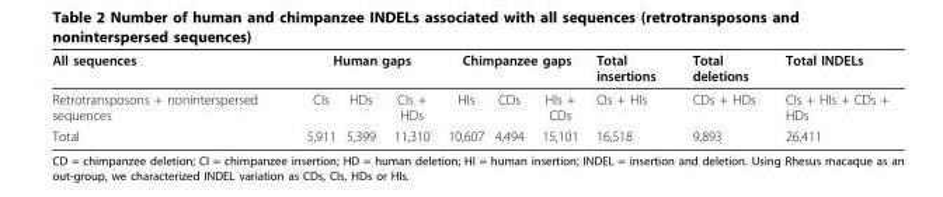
<table><thead><tr><td rowspan="2">All sequences Retrotransposons + noninterspersed sequences</td><td colspan="3">Human gaps</td><td colspan="3">Chimpanzee gaps</td><td rowspan="2">Total insertions CIs + HIs</td><td rowspan="2">Total deletions CDs + HDs</td><td rowspan="2">Total INDELs CIs + HIs + CDs + HDs</td></tr><tr><td>CIs</td><td>HDs</td><td>CIs + HDs</td><td>HIs</td><td>CDs</td><td>HIs + CDs</td></tr></thead><tbody><tr><td>Total</td><td>5,911</td><td>5,399</td><td>11,310</td><td>10,607</td><td>4,494</td><td>15,101</td><td>16,518</td><td>9,893</td><td>26,411</td></tr></tbody></table>